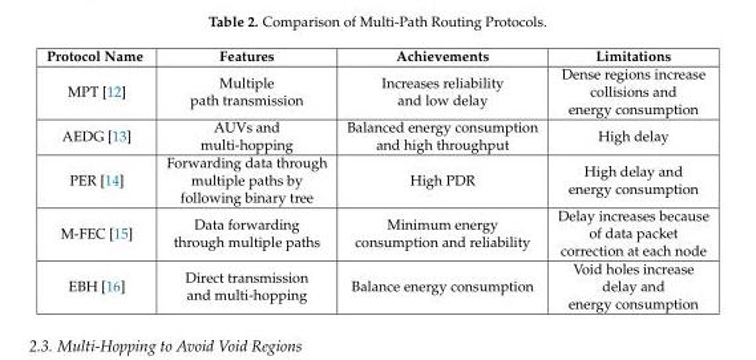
<table><thead><tr><td>Protocol Name</td><td>Features</td><td>Achievements</td><td>Limitations</td></tr></thead><tbody><tr><td>MPT [12]</td><td>Multiple path transmission</td><td>Increases reliability and low delay</td><td>Dense regions increase collisions and energy consumption</td></tr><tr><td>AEDG [13]</td><td>AUVs and multi-hopping</td><td>Balanced energy consumption and high throughput</td><td>High delay</td></tr><tr><td>PER [14]</td><td>Forwarding data through multiple paths by following binary tree</td><td>High PDR</td><td>High delay and energy consumption</td></tr><tr><td>M-FEC [15]</td><td>Data forwarding through multiple paths</td><td>Minimum energy consumption and reliability</td><td>Delay increases because of data packet correction at each node</td></tr><tr><td>EBH [16]</td><td>Direct transmission and multi-hopping</td><td>Balance energy consumption</td><td>Void holes increase delay and energy consumption</td></tr></tbody></table>